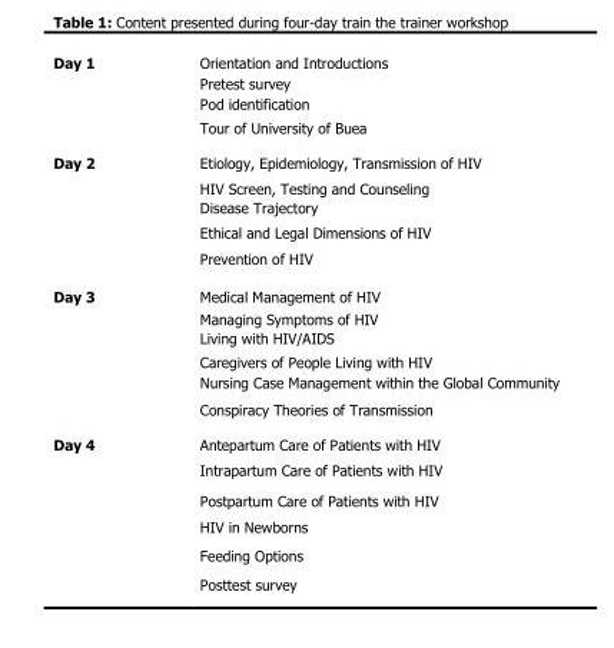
<table><tbody><tr><td>Day 1</td><td>Orientation and Introductions Pretest survey Pod identification Tour of University of Buea</td></tr><tr><td>Day 2</td><td>Etiology, Epidemiology, Transmission of HIV HIV Screen, Testing and Counseling Disease Trajectory Ethical and Legal Dimensions of HIV Prevention of HIV</td></tr><tr><td>Day 3</td><td>Medical Management of HIV Managing Symptoms of HIV Living with HIV/AIDS Caregivers of People Living with HIV Nursing Case Management within the Global Community Conspiracy Theories of Transmission</td></tr><tr><td>Day 4</td><td>Antepartum Care of Patients with HIV Intrapartum Care of Patients with HIV Postpartum Care of Patients with HIV HIV in Newborns Feeding Options Posttest survey</td></tr></tbody></table>